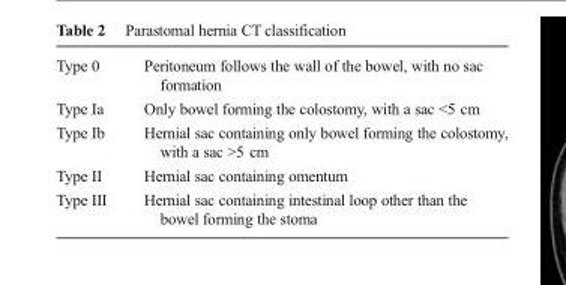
<table><tbody><tr><td>Type 0</td><td>Peritoneum follows the wall of the bowel, with no sac formation</td></tr><tr><td>Type Ia</td><td>Only bowel forming the colostomy, with a sac &lt;5 cm</td></tr><tr><td>Type Ib</td><td>Hernial sac containing only bowel forming the colostomy, with a sac &gt;5 cm</td></tr><tr><td>Type II</td><td>Hernial sac containing omentum</td></tr><tr><td>Type III</td><td>Hernial sac containing intestinal loop other than the bowel forming the stoma</td></tr></tbody></table>